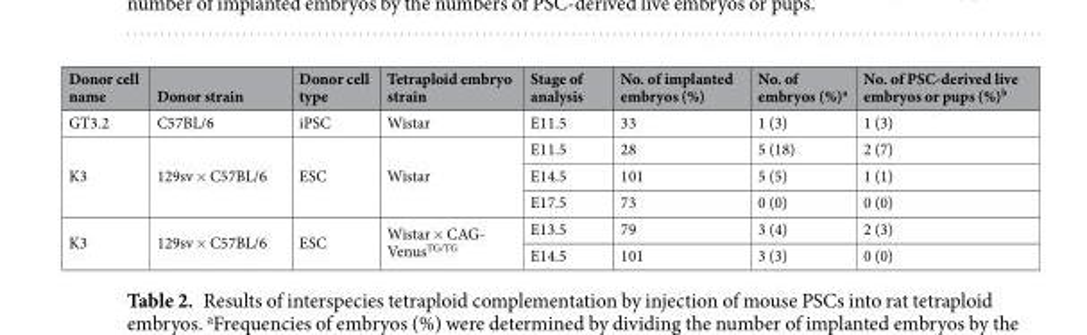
<table><thead><tr><td>Donor cell name</td><td>Donor strain</td><td>Donor cell type</td><td>Tetraploid embryo strain</td><td>Stage of analysis</td><td>No. of implanted embryos (%)</td><td>No. of embryos (%)<sup>a</sup></td><td>No. of PSC-derived live embryos or pups (%)<sup>b</sup></td></tr></thead><tbody><tr><td>GT3.2</td><td>C57BL/6</td><td>iPSC</td><td>Wistar</td><td>E11.5</td><td>33</td><td>1 (3)</td><td>1 (3)</td></tr><tr><td rowspan="3">K3</td><td rowspan="3">129sv × C57BL/6</td><td rowspan="3">ESC</td><td rowspan="3">Wistar</td><td>E11.5</td><td>28</td><td>5 (18)</td><td>2 (7)</td></tr><tr><td>E14.5</td><td>101</td><td>5 (5)</td><td>1 (1)</td></tr><tr><td>E17.5</td><td>73</td><td>0 (0)</td><td>0 (0)</td></tr><tr><td rowspan="2">K3</td><td rowspan="2">129sv × C57BL/6</td><td rowspan="2">ESC</td><td rowspan="2">Wistar × CAG- Venus<sup>TG/TG</sup></td><td>E13.5</td><td>79</td><td>3 (4)</td><td>2 (3)</td></tr><tr><td>E14.5</td><td>101</td><td>3 (3)</td><td>0 (0)</td></tr></tbody></table>